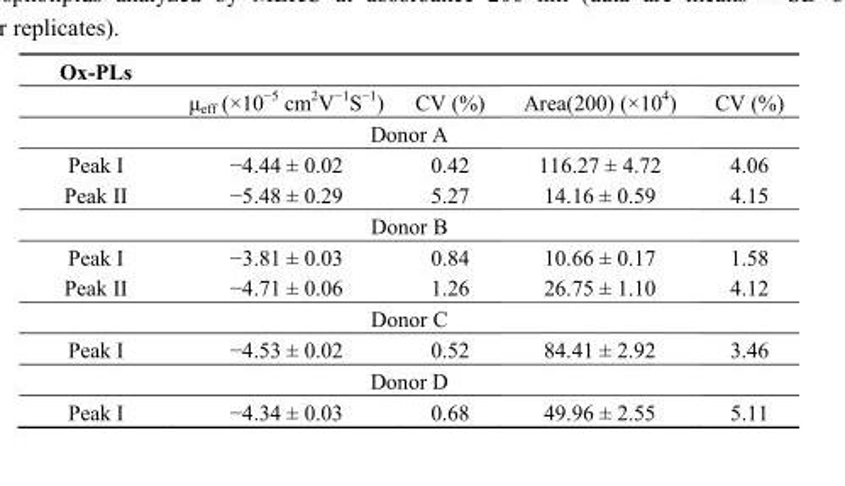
<table><thead><tr><td rowspan="2">Ox-PLs</td><td rowspan="2">μ<sub>eff</sub> (×10<sup>−5</sup> cm<sup>2</sup>V<sup>−1</sup>S<sup>−1</sup>)</td><td rowspan="2">CV (%)</td><td rowspan="2">Area(200) (×10<sup>4</sup>)</td><td rowspan="2">CV (%)</td></tr><tr></tr></thead><tbody><tr><td colspan="5">Donor A</td></tr><tr><td>Peak I</td><td>−4.44 ± 0.02</td><td>0.42</td><td>116.27 ± 4.72</td><td>4.06</td></tr><tr><td>Peak II</td><td>−5.48 ± 0.29</td><td>5.27</td><td>14.16 ± 0.59</td><td>4.15</td></tr><tr><td colspan="5">Donor B</td></tr><tr><td>Peak I</td><td>−3.81 ± 0.03</td><td>0.84</td><td>10.66 ± 0.17</td><td>1.58</td></tr><tr><td>Peak II</td><td>−4.71 ± 0.06</td><td>1.26</td><td>26.75 ± 1.10</td><td>4.12</td></tr><tr><td colspan="5">Donor C</td></tr><tr><td>Peak I</td><td>−4.53 ± 0.02</td><td>0.52</td><td>84.41 ± 2.92</td><td>3.46</td></tr><tr><td colspan="5">Donor D</td></tr><tr><td>Peak I</td><td>−4.34 ± 0.03</td><td>0.68</td><td>49.96 ± 2.55</td><td>5.11</td></tr></tbody></table>